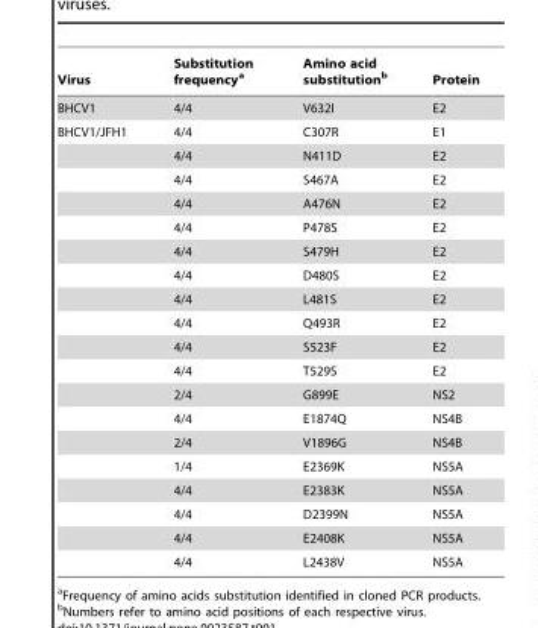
<table><thead><tr><td>Virus</td><td>Substitution frequency<sup>a</sup></td><td>Amino acid substitution<sup>b</sup></td><td>Protein</td></tr></thead><tbody><tr><td>BHCV1</td><td>4/4</td><td>V632I</td><td>E2</td></tr><tr><td rowspan="19">BHCV1/JFH1</td><td>4/4</td><td>C307R</td><td>E1</td></tr><tr><td>4/4</td><td>N411D</td><td>E2</td></tr><tr><td>4/4</td><td>S467A</td><td>E2</td></tr><tr><td>4/4</td><td>A476N</td><td>E2</td></tr><tr><td>4/4</td><td>P478S</td><td>E2</td></tr><tr><td>4/4</td><td>S479H</td><td>E2</td></tr><tr><td>4/4</td><td>D480S</td><td>E2</td></tr><tr><td>4/4</td><td>L481S</td><td>E2</td></tr><tr><td>4/4</td><td>Q493R</td><td>E2</td></tr><tr><td>4/4</td><td>S523F</td><td>E2</td></tr><tr><td>4/4</td><td>T529S</td><td>E2</td></tr><tr><td>2/4</td><td>G899E</td><td>NS2</td></tr><tr><td>4/4</td><td>E1874Q</td><td>NS4B</td></tr><tr><td>2/4</td><td>V1896G</td><td>NS4B</td></tr><tr><td>1/4</td><td>E2369K</td><td>NS5A</td></tr><tr><td>4/4</td><td>E2383K</td><td>NS5A</td></tr><tr><td>4/4</td><td>D2399N</td><td>NS5A</td></tr><tr><td>4/4</td><td>E2408K</td><td>NS5A</td></tr><tr><td>4/4</td><td>L2438V</td><td>NS5A</td></tr></tbody></table>